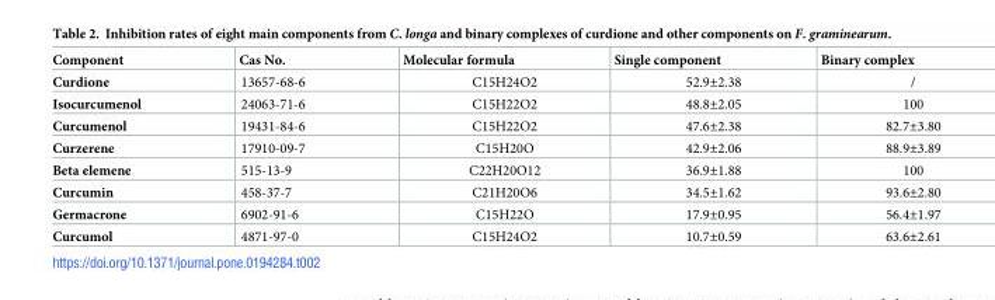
<table><thead><tr><td>Component</td><td>Cas No.</td><td>Molecular formula</td><td>Single component</td><td>Binary complex</td></tr></thead><tbody><tr><td>Curdione</td><td>13657-68-6</td><td>C15H24O2</td><td>52.9±2.38</td><td>/</td></tr><tr><td>Isocurcumenol</td><td>24063-71-6</td><td>C15H22O2</td><td>48.8±2.05</td><td>100</td></tr><tr><td>Curcumenol</td><td>19431-84-6</td><td>C15H22O2</td><td>47.6±2.38</td><td>82.7±3.80</td></tr><tr><td>Curzerene</td><td>17910-09-7</td><td>C15H20O</td><td>42.9±2.06</td><td>88.9±3.89</td></tr><tr><td>Beta elemene</td><td>515-13-9</td><td>C22H20O12</td><td>36.9±1.88</td><td>100</td></tr><tr><td>Curcumin</td><td>458-37-7</td><td>C21H20O6</td><td>34.5±1.62</td><td>93.6±2.80</td></tr><tr><td>Germacrone</td><td>6902-91-6</td><td>C15H22O</td><td>17.9±0.95</td><td>56.4±1.97</td></tr><tr><td>Curcumol</td><td>4871-97-0</td><td>C15H24O2</td><td>10.7±0.59</td><td>63.6±2.61</td></tr></tbody></table>